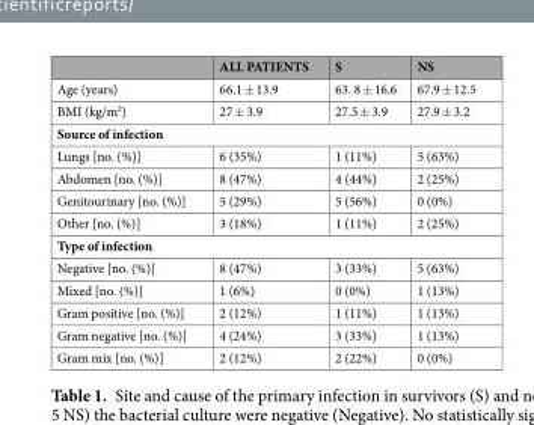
<table><thead><tr><td></td><td>ALL PATIENTS</td><td>S</td><td>NS</td></tr></thead><tbody><tr><td>Age (years)</td><td>66.1 ± 13.9</td><td>63. 8 ± 16.6</td><td>67.9 ± 12.5</td></tr><tr><td>BMI (kg/m<sup>2</sup>)</td><td>27 ± 3.9</td><td>27.5 ± 3.9</td><td>27.9 ± 3.2</td></tr><tr><td colspan="4">Source of infection</td></tr><tr><td>Lungs [no. (%)]</td><td>6 (35%)</td><td>1 (11%)</td><td>5 (63%)</td></tr><tr><td>Abdomen [no. (%)]</td><td>8 (47%)</td><td>4 (44%)</td><td>2 (25%)</td></tr><tr><td>Genitourinary [no. (%)]</td><td>5 (29%)</td><td>5 (56%)</td><td>0 (0%)</td></tr><tr><td>Other [no. (%)]</td><td>3 (18%)</td><td>1 (11%)</td><td>2 (25%)</td></tr><tr><td colspan="4">Type of infection</td></tr><tr><td>Negative [no. (%)]</td><td>8 (47%)</td><td>3 (33%)</td><td>5 (63%)</td></tr><tr><td>Mixed [no. (%)]</td><td>1 (6%)</td><td>0 (0%)</td><td>1 (13%)</td></tr><tr><td>Gram positive [no. (%)]</td><td>2 (12%)</td><td>1 (11%)</td><td>1 (13%)</td></tr><tr><td>Gram negative [no. (%)]</td><td>4 (24%)</td><td>3 (33%)</td><td>1 (13%)</td></tr><tr><td>Gram mix [no. (%)]</td><td>2 (12%)</td><td>2 (22%)</td><td>0 (0%)</td></tr></tbody></table>